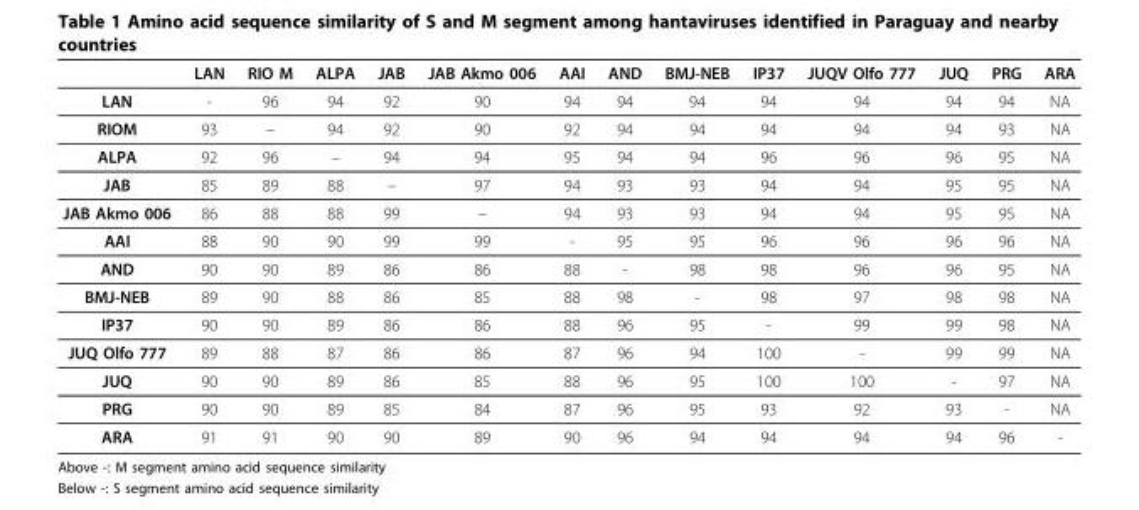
<table><thead><tr><td></td><td>LAN</td><td>RIO M</td><td>ALPA</td><td>JAB</td><td>JAB Akmo 006</td><td>AAI</td><td>AND</td><td>BMJ-NEB</td><td>IP37</td><td>JUQV Olfo 777</td><td>JUQ</td><td>PRG</td><td>ARA</td></tr></thead><tbody><tr><td>LAN</td><td>-</td><td>96</td><td>94</td><td>92</td><td>90</td><td>94</td><td>94</td><td>94</td><td>94</td><td>94</td><td>94</td><td>94</td><td>NA</td></tr><tr><td>RIOM</td><td>93</td><td>–</td><td>94</td><td>92</td><td>90</td><td>92</td><td>94</td><td>94</td><td>94</td><td>94</td><td>94</td><td>93</td><td>NA</td></tr><tr><td>ALPA</td><td>92</td><td>96</td><td>–</td><td>94</td><td>94</td><td>95</td><td>94</td><td>94</td><td>96</td><td>96</td><td>96</td><td>95</td><td>NA</td></tr><tr><td>JAB</td><td>85</td><td>89</td><td>88</td><td>–</td><td>97</td><td>94</td><td>93</td><td>93</td><td>94</td><td>94</td><td>95</td><td>95</td><td>NA</td></tr><tr><td>JAB Akmo 006</td><td>86</td><td>88</td><td>88</td><td>99</td><td>–</td><td>94</td><td>93</td><td>93</td><td>94</td><td>94</td><td>95</td><td>95</td><td>NA</td></tr><tr><td>AAI</td><td>88</td><td>90</td><td>90</td><td>99</td><td>99</td><td>-</td><td>95</td><td>95</td><td>96</td><td>96</td><td>96</td><td>96</td><td>NA</td></tr><tr><td>AND</td><td>90</td><td>90</td><td>89</td><td>86</td><td>86</td><td>88</td><td>-</td><td>98</td><td>98</td><td>96</td><td>96</td><td>95</td><td>NA</td></tr><tr><td>BMJ-NEB</td><td>89</td><td>90</td><td>88</td><td>86</td><td>85</td><td>88</td><td>98</td><td>-</td><td>98</td><td>97</td><td>98</td><td>98</td><td>NA</td></tr><tr><td>IP37</td><td>90</td><td>90</td><td>89</td><td>86</td><td>86</td><td>88</td><td>96</td><td>95</td><td>-</td><td>99</td><td>99</td><td>98</td><td>NA</td></tr><tr><td>JUQ Olfo 777</td><td>89</td><td>88</td><td>87</td><td>86</td><td>86</td><td>87</td><td>96</td><td>94</td><td>100</td><td>-</td><td>99</td><td>99</td><td>NA</td></tr><tr><td>JUQ</td><td>90</td><td>90</td><td>89</td><td>86</td><td>85</td><td>88</td><td>96</td><td>95</td><td>100</td><td>100</td><td>-</td><td>97</td><td>NA</td></tr><tr><td>PRG</td><td>90</td><td>90</td><td>89</td><td>85</td><td>84</td><td>87</td><td>96</td><td>95</td><td>93</td><td>92</td><td>93</td><td>-</td><td>NA</td></tr><tr><td>ARA</td><td>91</td><td>91</td><td>90</td><td>90</td><td>89</td><td>90</td><td>96</td><td>94</td><td>94</td><td>94</td><td>94</td><td>96</td><td>-</td></tr></tbody></table>